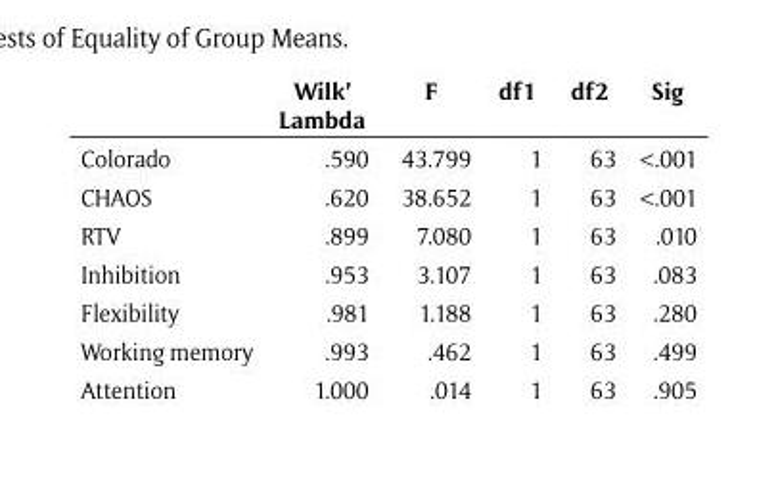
<table><thead><tr><td></td><td>Wilk’ Lambda</td><td>F</td><td>df1</td><td>df2</td><td>Sig</td></tr></thead><tbody><tr><td>Colorado</td><td>.590</td><td>43.799</td><td>1</td><td>63</td><td>&lt;.001</td></tr><tr><td>CHAOS</td><td>.620</td><td>38.652</td><td>1</td><td>63</td><td>&lt;.001</td></tr><tr><td>RTV</td><td>.899</td><td>7.080</td><td>1</td><td>63</td><td>.010</td></tr><tr><td>Inhibition</td><td>.953</td><td>3.107</td><td>1</td><td>63</td><td>.083</td></tr><tr><td>Flexibility</td><td>.981</td><td>1.188</td><td>1</td><td>63</td><td>.280</td></tr><tr><td>Working memory</td><td>.993</td><td>.462</td><td>1</td><td>63</td><td>.499</td></tr><tr><td>Attention</td><td>1.000</td><td>.014</td><td>1</td><td>63</td><td>.905</td></tr></tbody></table>